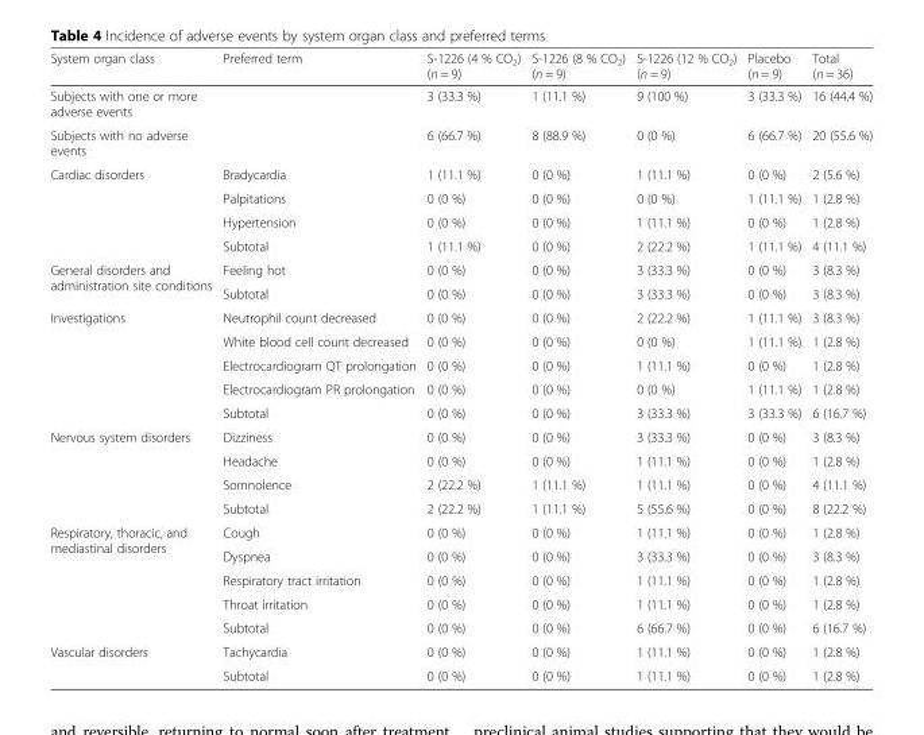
<table><thead><tr><td>System organ class</td><td>Preferred term</td><td>S-1226 (4 % CO<sub>2</sub>) (n = 9)</td><td>S-1226 (8 % CO<sub>2</sub>) (n = 9)</td><td>S-1226 (12 % CO<sub>2</sub>) (n = 9)</td><td>Placebo (n = 9)</td><td>Total (n = 36)</td></tr></thead><tbody><tr><td>Subjects with one or more adverse events</td><td></td><td>3 (33.3 %)</td><td>1 (11.1 %)</td><td>9 (100 %)</td><td>3 (33.3 %)</td><td>16 (44.4 %)</td></tr><tr><td>Subjects with no adverse events</td><td></td><td>6 (66.7 %)</td><td>8 (88.9 %)</td><td>0 (0 %)</td><td>6 (66.7 %)</td><td>20 (55.6 %)</td></tr><tr><td rowspan="4">Cardiac disorders</td><td>Bradycardia</td><td>1 (11.1 %)</td><td>0 (0 %)</td><td>1 (11.1 %)</td><td>0 (0 %)</td><td>2 (5.6 %)</td></tr><tr><td>Palpitations</td><td>0 (0 %)</td><td>0 (0 %)</td><td>0 (0 %)</td><td>1 (11.1 %)</td><td>1 (2.8 %)</td></tr><tr><td>Hypertension</td><td>0 (0 %)</td><td>0 (0 %)</td><td>1 (11.1 %)</td><td>0 (0 %)</td><td>1 (2.8 %)</td></tr><tr><td>Subtotal</td><td>1 (11.1 %)</td><td>0 (0 %)</td><td>2 (22.2 %)</td><td>1 (11.1 %)</td><td>4 (11.1 %)</td></tr><tr><td rowspan="2">General disorders and administration site conditions</td><td>Feeling hot</td><td>0 (0 %)</td><td>0 (0 %)</td><td>3 (33.3 %)</td><td>0 (0 %)</td><td>3 (8.3 %)</td></tr><tr><td>Subtotal</td><td>0 (0 %)</td><td>0 (0 %)</td><td>3 (33.3 %)</td><td>0 (0 %)</td><td>3 (8.3 %)</td></tr><tr><td rowspan="5">Investigations</td><td>Neutrophil count decreased</td><td>0 (0 %)</td><td>0 (0 %)</td><td>2 (22.2 %)</td><td>1 (11.1 %)</td><td>3 (8.3 %)</td></tr><tr><td>White blood cell count decreased</td><td>0 (0 %)</td><td>0 (0 %)</td><td>0 (0 %)</td><td>1 (11.1 %)</td><td>1 (2.8 %)</td></tr><tr><td>Electrocardiogram QT prolongation</td><td>0 (0 %)</td><td>0 (0 %)</td><td>1 (11.1 %)</td><td>0 (0 %)</td><td>1 (2.8 %)</td></tr><tr><td>Electrocardiogram PR prolongation</td><td>0 (0 %)</td><td>0 (0 %)</td><td>0 (0 %)</td><td>1 (11.1 %)</td><td>1 (2.8 %)</td></tr><tr><td>Subtotal</td><td>0 (0 %)</td><td>0 (0 %)</td><td>3 (33.3 %)</td><td>3 (33.3 %)</td><td>6 (16.7 %)</td></tr><tr><td rowspan="4">Nervous system disorders</td><td>Dizziness</td><td>0 (0 %)</td><td>0 (0 %)</td><td>3 (33.3 %)</td><td>0 (0 %)</td><td>3 (8.3 %)</td></tr><tr><td>Headache</td><td>0 (0 %)</td><td>0 (0 %)</td><td>1 (11.1 %)</td><td>0 (0 %)</td><td>1 (2.8 %)</td></tr><tr><td>Somnolence</td><td>2 (22.2 %)</td><td>1 (11.1 %)</td><td>1 (11.1 %)</td><td>0 (0 %)</td><td>4 (11.1 %)</td></tr><tr><td>Subtotal</td><td>2 (22.2 %)</td><td>1 (11.1 %)</td><td>5 (55.6 %)</td><td>0 (0 %)</td><td>8 (22.2 %)</td></tr><tr><td rowspan="5">Respiratory, thoracic, and mediastinal disorders</td><td>Cough</td><td>0 (0 %)</td><td>0 (0 %)</td><td>1 (11.1 %)</td><td>0 (0 %)</td><td>1 (2.8 %)</td></tr><tr><td>Dyspnea</td><td>0 (0 %)</td><td>0 (0 %)</td><td>3 (33.3 %)</td><td>0 (0 %)</td><td>3 (8.3 %)</td></tr><tr><td>Respiratory tract irritation</td><td>0 (0 %)</td><td>0 (0 %)</td><td>1 (11.1 %)</td><td>0 (0 %)</td><td>1 (2.8 %)</td></tr><tr><td>Throat irritation</td><td>0 (0 %)</td><td>0 (0 %)</td><td>1 (11.1 %)</td><td>0 (0 %)</td><td>1 (2.8 %)</td></tr><tr><td>Subtotal</td><td>0 (0 %)</td><td>0 (0 %)</td><td>6 (66.7 %)</td><td>0 (0 %)</td><td>6 (16.7 %)</td></tr><tr><td rowspan="2">Vascular disorders</td><td>Tachycardia</td><td>0 (0 %)</td><td>0 (0 %)</td><td>1 (11.1 %)</td><td>0 (0 %)</td><td>1 (2.8 %)</td></tr><tr><td>Subtotal</td><td>0 (0 %)</td><td>0 (0 %)</td><td>1 (11.1 %)</td><td>0 (0 %)</td><td>1 (2.8 %)</td></tr></tbody></table>